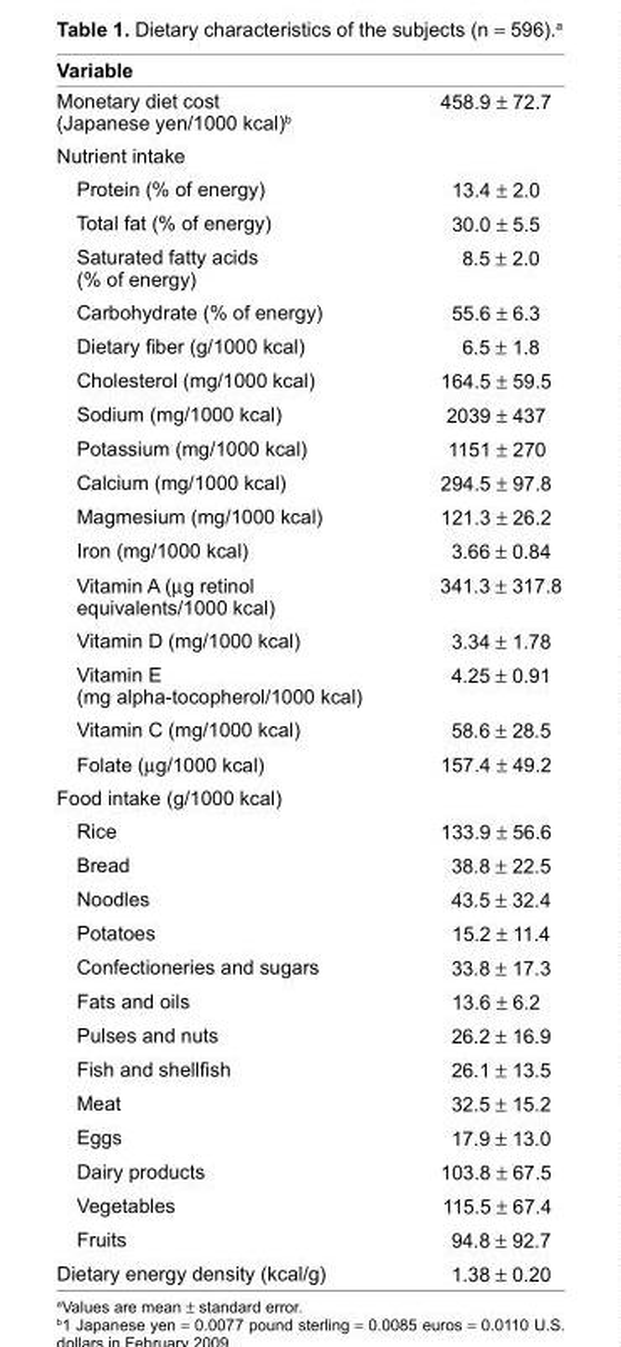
<table><thead><tr><td>Variable</td><td></td></tr></thead><tbody><tr><td>Monetary diet cost (Japanese yen/1000 kcal)<sup>b</sup></td><td>458.9 ± 72.7</td></tr><tr><td colspan="2">nutrient intake</td></tr><tr><td>Protein (% of energy)</td><td>13.4 ± 2.0</td></tr><tr><td>Total fat (% of energy)</td><td>30.0 ± 5.5</td></tr><tr><td>saturated fatty acids (% of energy)</td><td>8.5 ± 2.0</td></tr><tr><td>Carbohydrate (% of energy)</td><td>55.6 ± 6.3</td></tr><tr><td>Dietary fiber (g/1000 kcal)</td><td>6.5 ± 1.8</td></tr><tr><td>Cholesterol (mg/1000 kcal)</td><td>164.5 ± 59.5</td></tr><tr><td>sodium (mg/1000 kcal)</td><td>2039 ± 437</td></tr><tr><td>Potassium (mg/1000 kcal)</td><td>1151 ± 270</td></tr><tr><td>Calcium (mg/1000 kcal)</td><td>294.5 ± 97.8</td></tr><tr><td>Magmesium (mg/1000 kcal)</td><td>121.3 ± 26.2</td></tr><tr><td>Iron (mg/1000 kcal)</td><td>3.66 ± 0.84</td></tr><tr><td>Vitamin A (µg retinol equivalents/1000 kcal)</td><td>341.3 ± 317.8</td></tr><tr><td>Vitamin D (mg/1000 kcal)</td><td>3.34 ± 1.78</td></tr><tr><td>Vitamin E (mg alpha-tocopherol/1000 kcal)</td><td>4.25 ± 0.91</td></tr><tr><td>Vitamin C (mg/1000 kcal)</td><td>58.6 ± 28.5</td></tr><tr><td>Folate (µg/1000 kcal)</td><td>157.4 ± 49.2</td></tr><tr><td colspan="2">Food intake (g/1000 kcal)</td></tr><tr><td>rice</td><td>133.9 ± 56.6</td></tr><tr><td>Bread</td><td>38.8 ± 22.5</td></tr><tr><td>noodles</td><td>43.5 ± 32.4</td></tr><tr><td>Potatoes</td><td>15.2 ± 11.4</td></tr><tr><td>Confectioneries and sugars</td><td>33.8 ± 17.3</td></tr><tr><td>Fats and oils</td><td>13.6 ± 6.2</td></tr><tr><td>Pulses and nuts</td><td>26.2 ± 16.9</td></tr><tr><td>Fish and shellfish</td><td>26.1 ± 13.5</td></tr><tr><td>Meat</td><td>32.5 ± 15.2</td></tr><tr><td>Eggs</td><td>17.9 ± 13.0</td></tr><tr><td>Dairy products</td><td>103.8 ± 67.5</td></tr><tr><td>Vegetables</td><td>115.5 ± 67.4</td></tr><tr><td>Fruits</td><td>94.8 ± 92.7</td></tr><tr><td>Dietary energy density (kcal/g)</td><td>1.38 ± 0.20</td></tr></tbody></table>